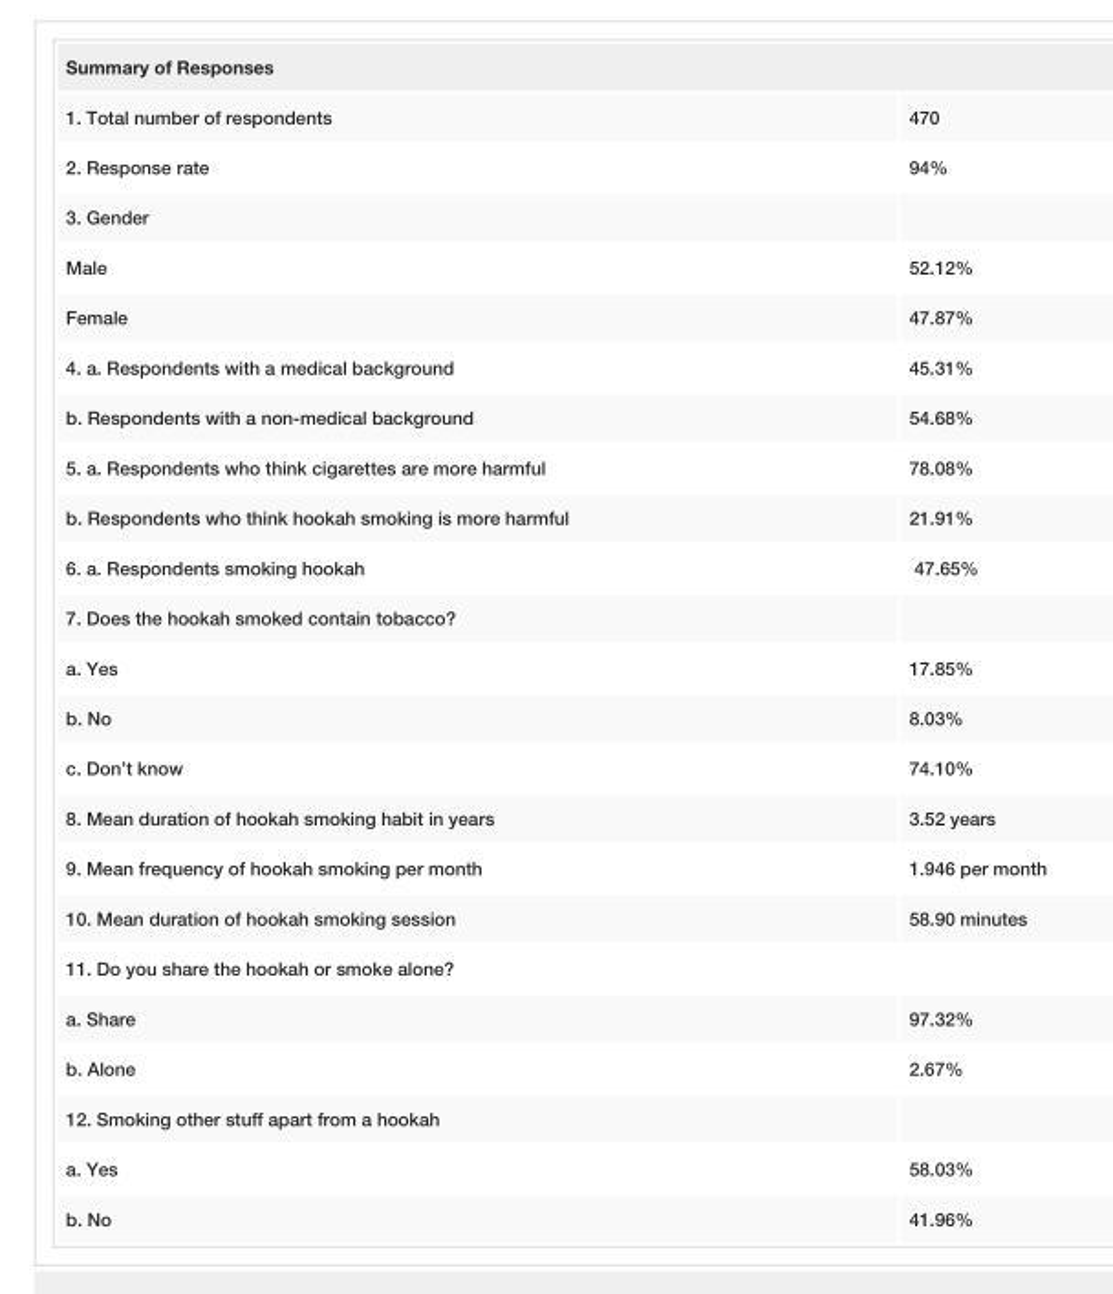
<table><tbody><tr><td colspan="2">Summary of Responses</td></tr><tr><td>1. Total number of respondents</td><td>470</td></tr><tr><td>2. Response rate</td><td>94%</td></tr><tr><td colspan="2">3. Gender</td></tr><tr><td>Male</td><td>52.12%</td></tr><tr><td>Female</td><td>47.87%</td></tr><tr><td>4. a. Respondents with a medical background</td><td>45.31%</td></tr><tr><td>b. Respondents with a non-medical background</td><td>54.68%</td></tr><tr><td>5. a. Respondents who think cigarettes are more harmful</td><td>78.08%</td></tr><tr><td>b. Respondents who think hookah smoking is more harmful</td><td>21.91%</td></tr><tr><td>6. a. Respondents smoking hookah</td><td>47.65%</td></tr><tr><td colspan="2">7. Does the hookah smoked contain tobacco?</td></tr><tr><td>a. Yes</td><td>17.85%</td></tr><tr><td>b. No</td><td>8.03%</td></tr><tr><td>c. Don’t know</td><td>74.10%</td></tr><tr><td>8. Mean duration of hookah smoking habit in years</td><td>3.52 years</td></tr><tr><td>9. Mean frequency of hookah smoking per month</td><td>1.946 per month</td></tr><tr><td>10. Mean duration of hookah smoking session</td><td>58.90 minutes</td></tr><tr><td colspan="2">11. Do you share the hookah or smoke alone?</td></tr><tr><td>a. Share</td><td>97.32%</td></tr><tr><td>b. Alone</td><td>2.67%</td></tr><tr><td colspan="2">12. Smoking other stuff apart from a hookah</td></tr><tr><td>a. Yes</td><td>58.03%</td></tr><tr><td>b. No</td><td>41.96%</td></tr></tbody></table>